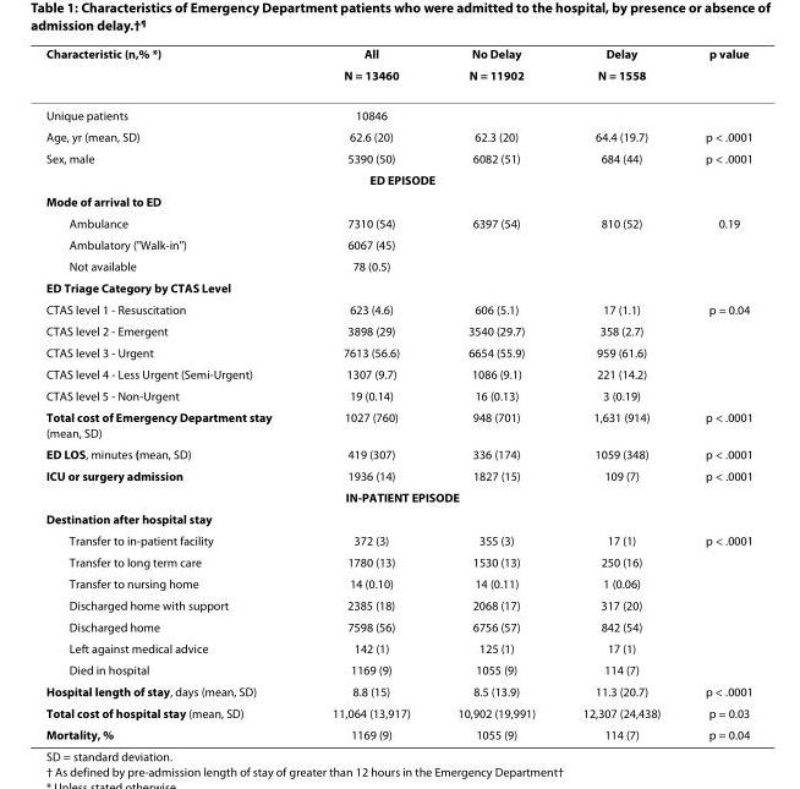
<table><thead><tr><td rowspan="2">Characteristic (n,% *)</td><td rowspan="2">All N = 13460</td><td rowspan="2">No Delay N = 11902</td><td rowspan="2">Delay N = 1558</td><td rowspan="2">p value</td></tr><tr></tr></thead><tbody><tr><td>Unique patients</td><td>10846</td><td></td><td></td><td></td></tr><tr><td>Age, yr (mean, SD)</td><td>62.6 (20)</td><td>62.3 (20)</td><td>64.4 (19.7)</td><td>p &lt; .0001</td></tr><tr><td>Sex, male</td><td>5390 (50)</td><td>6082 (51)</td><td>684 (44)</td><td>p &lt; .0001</td></tr><tr><td colspan="5">ED EPISODE</td></tr><tr><td colspan="5">Mode of arrival to ED</td></tr><tr><td>Ambulance</td><td>7310 (54)</td><td>6397 (54)</td><td>810 (52)</td><td>0.19</td></tr><tr><td>Ambulatory (&quot;Walk-in&quot;)</td><td>6067 (45)</td><td></td><td></td><td></td></tr><tr><td>Not available</td><td>78 (0.5)</td><td></td><td></td><td></td></tr><tr><td colspan="5">ED Triage Category by CTAS Level</td></tr><tr><td>CTAS level 1 - Resuscitation</td><td>623 (4.6)</td><td>606 (5.1)</td><td>17 (1.1)</td><td>p = 0.04</td></tr><tr><td>CTAS level 2 - Emergent</td><td>3898 (29)</td><td>3540 (29.7)</td><td>358 (2.7)</td><td></td></tr><tr><td>CTAS level 3 - Urgent</td><td>7613 (56.6)</td><td>6654 (55.9)</td><td>959 (61.6)</td><td></td></tr><tr><td>CTAS level 4 - Less Urgent (Semi-Urgent)</td><td>1307 (9.7)</td><td>1086 (9.1)</td><td>221 (14.2)</td><td></td></tr><tr><td>CTAS level 5 - Non-Urgent</td><td>19 (0.14)</td><td>16 (0.13)</td><td>3 (0.19)</td><td></td></tr><tr><td>Total cost of Emergency Department stay (mean, SD)</td><td>1027 (760)</td><td>948 (701)</td><td>1,631 (914)</td><td>p &lt; .0001</td></tr><tr><td>ED LOS, minutes (mean, SD)</td><td>419 (307)</td><td>336 (174)</td><td>1059 (348)</td><td>p &lt; .0001</td></tr><tr><td>ICU or surgery admission</td><td>1936 (14)</td><td>1827 (15)</td><td>109 (7)</td><td>p &lt; .0001</td></tr><tr><td colspan="5">IN-PATIENT EPISODE</td></tr><tr><td colspan="5">Destination after hospital stay</td></tr><tr><td>Transfer to in-patient facility</td><td>372 (3)</td><td>355 (3)</td><td>17 (1)</td><td>p &lt; .0001</td></tr><tr><td>Transfer to long term care</td><td>1780 (13)</td><td>1530 (13)</td><td>250 (16)</td><td></td></tr><tr><td>Transfer to nursing home</td><td>14 (0.10)</td><td>14 (0.11)</td><td>1 (0.06)</td><td></td></tr><tr><td>Discharged home with support</td><td>2385 (18)</td><td>2068 (17)</td><td>317 (20)</td><td></td></tr><tr><td>Discharged home</td><td>7598 (56)</td><td>6756 (57)</td><td>842 (54)</td><td></td></tr><tr><td>Left against medical advice</td><td>142 (1)</td><td>125 (1)</td><td>17 (1)</td><td></td></tr><tr><td>Died in hospital</td><td>1169 (9)</td><td>1055 (9)</td><td>114 (7)</td><td></td></tr><tr><td>Hospital length of stay, days (mean, SD)</td><td>8.8 (15)</td><td>8.5 (13.9)</td><td>11.3 (20.7)</td><td>p &lt; .0001</td></tr><tr><td>Total cost of hospital stay (mean, SD)</td><td>11,064 (13,917)</td><td>10,902 (19,991)</td><td>12,307 (24,438)</td><td>p = 0.03</td></tr><tr><td>Mortality, %</td><td>1169 (9)</td><td>1055 (9)</td><td>114 (7)</td><td>p = 0.04</td></tr></tbody></table>